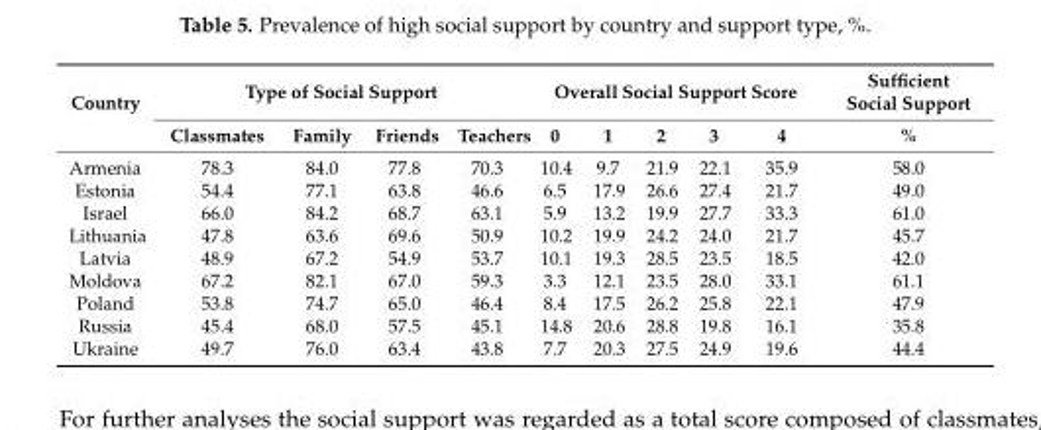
<table><thead><tr><td rowspan="2">Country</td><td colspan="4">Type of Social Support</td><td colspan="5">Overall Social Support Score</td><td rowspan="2">Sufficient Social Support %</td></tr><tr><td>Classmates</td><td>Family</td><td>Friends</td><td>Teachers</td><td>0</td><td>1</td><td>2</td><td>3</td><td>4</td></tr></thead><tbody><tr><td>Armenia</td><td>78.3</td><td>84.0</td><td>77.8</td><td>70.3</td><td>10.4</td><td>9.7</td><td>21.9</td><td>22.1</td><td>35.9</td><td>58.0</td></tr><tr><td>Estonia</td><td>54.4</td><td>77.1</td><td>63.8</td><td>46.6</td><td>6.5</td><td>17.9</td><td>26.6</td><td>27.4</td><td>21.7</td><td>49.0</td></tr><tr><td>Israel</td><td>66.0</td><td>84.2</td><td>68.7</td><td>63.1</td><td>5.9</td><td>13.2</td><td>19.9</td><td>27.7</td><td>33.3</td><td>61.0</td></tr><tr><td>Lithuania</td><td>47.8</td><td>63.6</td><td>69.6</td><td>50.9</td><td>10.2</td><td>19.9</td><td>24.2</td><td>24.0</td><td>21.7</td><td>45.7</td></tr><tr><td>Latvia</td><td>48.9</td><td>67.2</td><td>54.9</td><td>53.7</td><td>10.1</td><td>19.3</td><td>28.5</td><td>23.5</td><td>18.5</td><td>42.0</td></tr><tr><td>Moldova</td><td>67.2</td><td>82.1</td><td>67.0</td><td>59.3</td><td>3.3</td><td>12.1</td><td>23.5</td><td>28.0</td><td>33.1</td><td>61.1</td></tr><tr><td>Poland</td><td>53.8</td><td>74.7</td><td>65.0</td><td>46.4</td><td>8.4</td><td>17.5</td><td>26.2</td><td>25.8</td><td>22.1</td><td>47.9</td></tr><tr><td>Russia</td><td>45.4</td><td>68.0</td><td>57.5</td><td>45.1</td><td>14.8</td><td>20.6</td><td>28.8</td><td>19.8</td><td>16.1</td><td>35.8</td></tr><tr><td>Ukraine</td><td>49.7</td><td>76.0</td><td>63.4</td><td>43.8</td><td>7.7</td><td>20.3</td><td>27.5</td><td>24.9</td><td>19.6</td><td>44.4</td></tr></tbody></table>